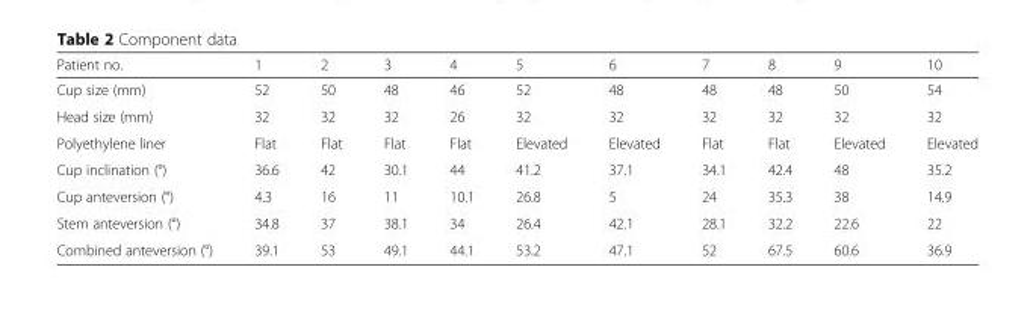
<table><thead><tr><td>Patient no.</td><td>1</td><td>2</td><td>3</td><td>4</td><td>5</td><td>6</td><td>7</td><td>8</td><td>9</td><td>10</td></tr></thead><tbody><tr><td>Cup size (mm)</td><td>52</td><td>50</td><td>48</td><td>46</td><td>52</td><td>48</td><td>48</td><td>48</td><td>50</td><td>54</td></tr><tr><td>Head size (mm)</td><td>32</td><td>32</td><td>32</td><td>26</td><td>32</td><td>32</td><td>32</td><td>32</td><td>32</td><td>32</td></tr><tr><td>Polyethylene liner</td><td>Flat</td><td>Flat</td><td>Flat</td><td>Flat</td><td>Elevated</td><td>Elevated</td><td>Flat</td><td>Flat</td><td>Elevated</td><td>Elevated</td></tr><tr><td>Cup inclination (°)</td><td>36.6</td><td>42</td><td>30.1</td><td>44</td><td>41.2</td><td>37.1</td><td>34.1</td><td>42.4</td><td>48</td><td>35.2</td></tr><tr><td>Cup anteversion (°)</td><td>4.3</td><td>16</td><td>11</td><td>10.1</td><td>26.8</td><td>5</td><td>24</td><td>35.3</td><td>38</td><td>14.9</td></tr><tr><td>Stem anteversion (°)</td><td>34.8</td><td>37</td><td>38.1</td><td>34</td><td>26.4</td><td>42.1</td><td>28.1</td><td>32.2</td><td>22.6</td><td>22</td></tr><tr><td>Combined anteversion (°)</td><td>39.1</td><td>53</td><td>49.1</td><td>44.1</td><td>53.2</td><td>47.1</td><td>52</td><td>67.5</td><td>60.6</td><td>36.9</td></tr></tbody></table>